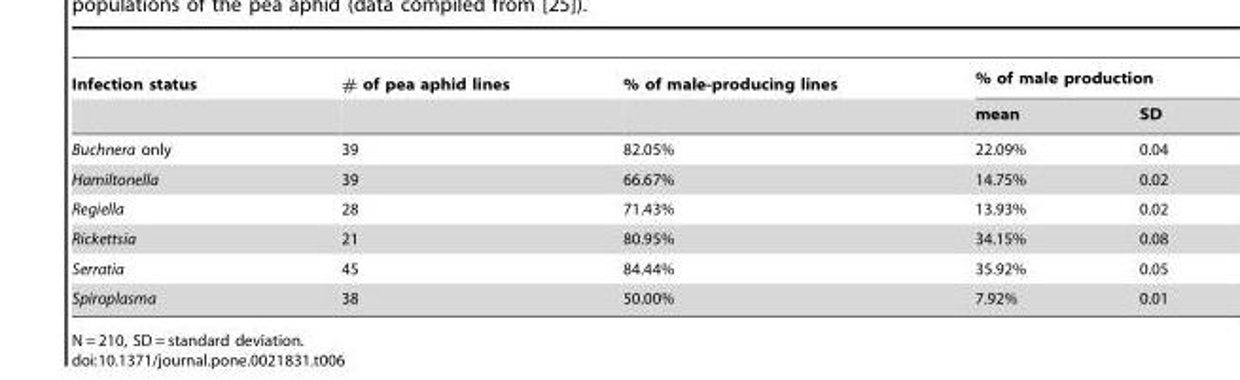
<table><thead><tr><td rowspan="2">Infection status</td><td rowspan="2"># of pea aphid lines</td><td rowspan="2">% of male-producing lines</td><td colspan="2">% of male production</td></tr><tr><td>mean</td><td>SD</td></tr></thead><tbody><tr><td>Buchnera only</td><td>39</td><td>82.05%</td><td>22.09%</td><td>0.04</td></tr><tr><td>Hamiltonella</td><td>39</td><td>66.67%</td><td>14.75%</td><td>0.02</td></tr><tr><td>Regiella</td><td>28</td><td>71.43%</td><td>13.93%</td><td>0.02</td></tr><tr><td>Rickettsia</td><td>21</td><td>80.95%</td><td>34.15%</td><td>0.08</td></tr><tr><td>Serratia</td><td>45</td><td>84.44%</td><td>35.92%</td><td>0.05</td></tr><tr><td>Spiroplasma</td><td>38</td><td>50.00%</td><td>7.92%</td><td>0.01</td></tr></tbody></table>